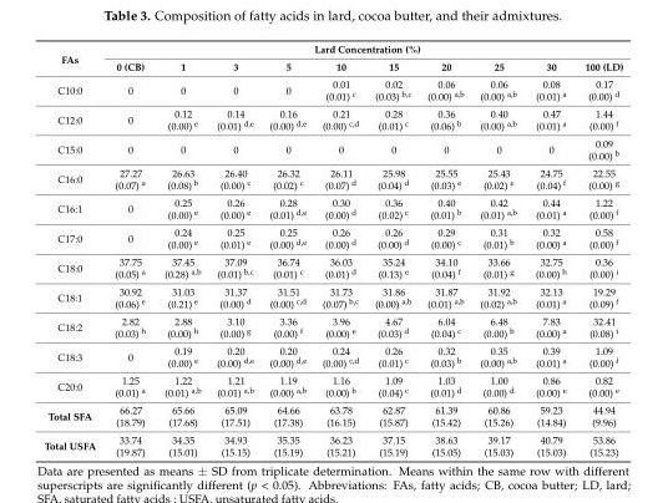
<table><thead><tr><td rowspan="2">FAs</td><td colspan="10">Lard Concentration (%)</td></tr><tr><td>0 (CB)</td><td>1</td><td>3</td><td>5</td><td>10</td><td>15</td><td>20</td><td>25</td><td>30</td><td>100 (LD)</td></tr></thead><tbody><tr><td>C10:0</td><td>0</td><td>0</td><td>0</td><td>0</td><td>0.01 (0.01) <sup>c</sup></td><td>0.02 (0.03) <sup>b,c</sup></td><td>0.06 (0.00) <sup>a,b</sup></td><td>0.06 (0.00) <sup>a,b</sup></td><td>0.08 (0.01) <sup>a</sup></td><td>0.17 (0.00) <sup>d</sup></td></tr><tr><td>C12:0</td><td>0</td><td>0.12 (0.00) <sup>e</sup></td><td>0.14 (0.01) <sup>d,e</sup></td><td>0.16 (0.00) <sup>d,e</sup></td><td>0.21 (0.00) <sup>c,d</sup></td><td>0.28 (0.01) <sup>c</sup></td><td>0.36 (0.06) <sup>b</sup></td><td>0.40 (0.00) <sup>a,b</sup></td><td>0.47 (0.01) <sup>a</sup></td><td>1.44 (0.00) <sup>f</sup></td></tr><tr><td>C15:0</td><td>0</td><td>0</td><td>0</td><td>0</td><td>0</td><td>0</td><td>0</td><td>0</td><td>0</td><td>0.09 (0.00) <sup>b</sup></td></tr><tr><td>C16:0</td><td>27.27 (0.07) <sup>a</sup></td><td>26.63 (0.08) <sup>b</sup></td><td>26.40 (0.00) <sup>c</sup></td><td>26.32 (0.02) <sup>c</sup></td><td>26.11 (0.07) <sup>d</sup></td><td>25.98 (0.04) <sup>d</sup></td><td>25.55 (0.03) <sup>e</sup></td><td>25.43 (0.02) <sup>e</sup></td><td>24.75 (0.04) <sup>f</sup></td><td>22.55 (0.00) <sup>g</sup></td></tr><tr><td>C16:1</td><td>0</td><td>0.25 (0.00) <sup>e</sup></td><td>0.26 (0.00) <sup>e</sup></td><td>0.28 (0.01) <sup>d,e</sup></td><td>0.30 (0.00) <sup>d</sup></td><td>0.36 (0.02) <sup>c</sup></td><td>0.40 (0.01) <sup>b</sup></td><td>0.42 (0.01) <sup>a,b</sup></td><td>0.44 (0.01) <sup>a</sup></td><td>1.22 (0.00) <sup>f</sup></td></tr><tr><td>C17:0</td><td>0</td><td>0.24 (0.00) <sup>e</sup></td><td>0.25 (0.01) <sup>e</sup></td><td>0.25 (0.00) <sup>d,e</sup></td><td>0.26 (0.00) <sup>d</sup></td><td>0.26 (0.00) <sup>d</sup></td><td>0.29 (0.00) <sup>c</sup></td><td>0.31 (0.01) <sup>b</sup></td><td>0.32 (0.00) <sup>a</sup></td><td>0.58 (0.00) <sup>f</sup></td></tr><tr><td>C18:0</td><td>37.75 (0.05) <sup>a</sup></td><td>37.45 (0.28) <sup>a,b</sup></td><td>37.09 (0.01) <sup>b,c</sup></td><td>36.74 (0.01) <sup>c</sup></td><td>36.03 (0.01) <sup>d</sup></td><td>35.24 (0.13) <sup>e</sup></td><td>34.10 (0.04) <sup>f</sup></td><td>33.66 (0.01) <sup>g</sup></td><td>32.75 (0.00) <sup>h</sup></td><td>0.36 (0.00) <sup>i</sup></td></tr><tr><td>C18:1</td><td>30.92 (0.06) <sup>e</sup></td><td>31.03 (0.21) <sup>e</sup></td><td>31.37 (0.00) <sup>d</sup></td><td>31.51 (0.00) <sup>c,d</sup></td><td>31.73 (0.07) <sup>b,c</sup></td><td>31.86 (0.00) <sup>a,b</sup></td><td>31.87 (0.01) <sup>a,b</sup></td><td>31.92 (0.02) <sup>a,b</sup></td><td>32.13 (0.01) <sup>a</sup></td><td>19.29 (0.09) <sup>f</sup></td></tr><tr><td>C18:2</td><td>2.82 (0.03) <sup>h</sup></td><td>2.88 (0.00) <sup>h</sup></td><td>3.10 (0.00) <sup>g</sup></td><td>3.36 (0.00) <sup>f</sup></td><td>3.96 (0.00) <sup>e</sup></td><td>4.67 (0.03) <sup>d</sup></td><td>6.04 (0.04) <sup>c</sup></td><td>6.48 (0.00) <sup>b</sup></td><td>7.83 (0.00) <sup>a</sup></td><td>32.41 (0.08) <sup>i</sup></td></tr><tr><td>C18:3</td><td>0</td><td>0.19 (0.00) <sup>e</sup></td><td>0.20 (0.00) <sup>d,e</sup></td><td>0.20 (0.00) <sup>d,e</sup></td><td>0.24 (0.00) <sup>c,d</sup></td><td>0.26 (0.01) <sup>c</sup></td><td>0.32 (0.03) <sup>b</sup></td><td>0.35 (0.00) <sup>a,b</sup></td><td>0.39 (0.01) <sup>a</sup></td><td>1.09 (0.00) <sup>f</sup></td></tr><tr><td>C20:0</td><td>1.25 (0.01) <sup>a</sup></td><td>1.22 (0.01) <sup>a,b</sup></td><td>1.21 (0.01) <sup>a,b</sup></td><td>1.19 (0.00) <sup>a,b</sup></td><td>1.16 (0.00) <sup>b</sup></td><td>1.09 (0.04) <sup>c</sup></td><td>1.03 (0.01) <sup>d</sup></td><td>1.00 (0.00) <sup>d</sup></td><td>0.86 (0.00) <sup>e</sup></td><td>0.82 (0.00) <sup>e</sup></td></tr><tr><td>Total SFA</td><td>66.27 (18.79)</td><td>65.66 (17.68)</td><td>65.09 (17.51)</td><td>64.66 (17.38)</td><td>63.78 (16.15)</td><td>62.87 (15.87)</td><td>61.39 (15.42)</td><td>60.86 (15.26)</td><td>59.23 (14.84)</td><td>44.94 (9.96)</td></tr><tr><td>Total USFA</td><td>33.74 (19.87)</td><td>34.35 (15.01)</td><td>34.93 (15.15)</td><td>35.35 (15.19)</td><td>36.23 (15.21)</td><td>37.15 (15.19)</td><td>38.63 (15.05)</td><td>39.17 (15.03)</td><td>40.79 (15.03)</td><td>53.86 (15.23)</td></tr></tbody></table>